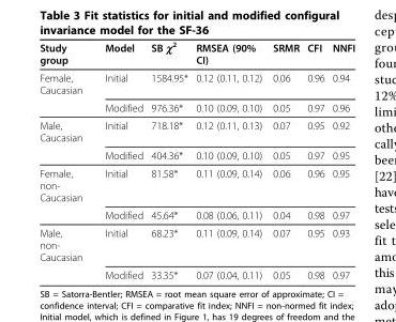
<table><thead><tr><td>Study group</td><td>Model</td><td>SB χ<sup>2</sup></td><td>RMSEA (90% CI)</td><td>SRMR</td><td>CFI</td><td>NNFI</td></tr></thead><tbody><tr><td rowspan="2">Female, Caucasian</td><td>Initial</td><td>1584.95*</td><td>0.12 (0.11, 0.12)</td><td>0.06</td><td>0.96</td><td>0.94</td></tr><tr><td>Modified</td><td>976.36*</td><td>0.10 (0.09, 0.10)</td><td>0.05</td><td>0.97</td><td>0.96</td></tr><tr><td rowspan="2">Male, Caucasian</td><td>Initial</td><td>718.18*</td><td>0.12 (0.11, 0.13)</td><td>0.07</td><td>0.95</td><td>0.92</td></tr><tr><td>Modified</td><td>404.36*</td><td>0.10 (0.09, 0.10)</td><td>0.05</td><td>0.97</td><td>0.95</td></tr><tr><td rowspan="2">Female, non- Caucasian</td><td>Initial</td><td>81.58*</td><td>0.11 (0.09, 0.14)</td><td>0.06</td><td>0.96</td><td>0.95</td></tr><tr><td>Modified</td><td>45.64*</td><td>0.08 (0.06, 0.11)</td><td>0.04</td><td>0.98</td><td>0.97</td></tr><tr><td rowspan="2">Male, non- Caucasian</td><td>Initial</td><td>68.23*</td><td>0.11 (0.09, 0.14)</td><td>0.07</td><td>0.95</td><td>0.93</td></tr><tr><td>Modified</td><td>33.35*</td><td>0.07 (0.04, 0.11)</td><td>0.05</td><td>0.98</td><td>0.97</td></tr></tbody></table>